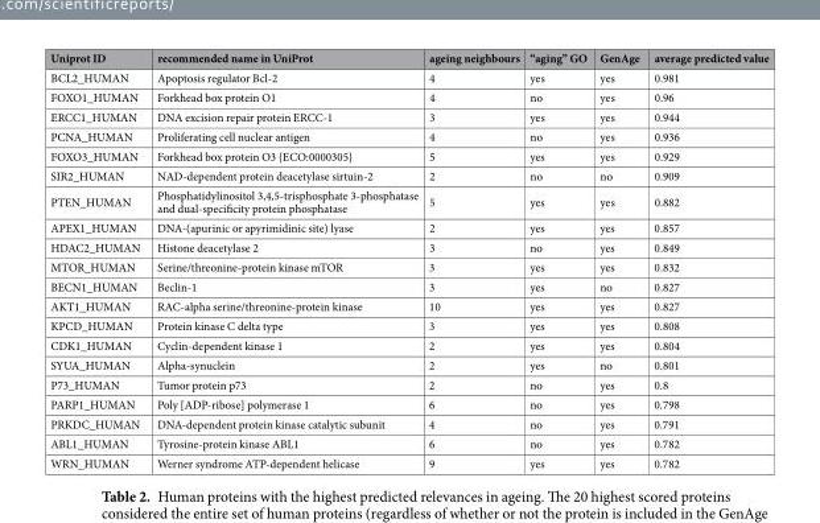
<table><thead><tr><td>Uniprot ID</td><td>recommended name in UniProt</td><td>ageing neighbours</td><td>“aging” GO</td><td>GenAge</td><td>average predicted value</td></tr></thead><tbody><tr><td>BCL2_HUMAN</td><td>Apoptosis regulator Bcl-2</td><td>4</td><td>yes</td><td>yes</td><td>0.981</td></tr><tr><td>FOXO1_HUMAN</td><td>Forkhead box protein O1</td><td>4</td><td>no</td><td>yes</td><td>0.96</td></tr><tr><td>ERCC1_HUMAN</td><td>DNA excision repair protein ERCC-1</td><td>3</td><td>yes</td><td>yes</td><td>0.944</td></tr><tr><td>PCNA_HUMAN</td><td>Proliferating cell nuclear antigen</td><td>4</td><td>no</td><td>yes</td><td>0.936</td></tr><tr><td>FOXO3_HUMAN</td><td>Forkhead box protein O3 {ECO:0000305}</td><td>5</td><td>yes</td><td>yes</td><td>0.929</td></tr><tr><td>SIR2_HUMAN</td><td>NAD-dependent protein deacetylase sirtuin-2</td><td>2</td><td>no</td><td>no</td><td>0.909</td></tr><tr><td>PTEN_HUMAN</td><td>Phosphatidylinositol 3,4,5-trisphosphate 3-phosphatase and dual-specificity protein phosphatase</td><td>5</td><td>yes</td><td>yes</td><td>0.882</td></tr><tr><td>APEX1_HUMAN</td><td>DNA-(apurinic or apyrimidinic site) lyase</td><td>2</td><td>yes</td><td>yes</td><td>0.857</td></tr><tr><td>HDAC2_HUMAN</td><td>Histone deacetylase 2</td><td>3</td><td>no</td><td>yes</td><td>0.849</td></tr><tr><td>MTOR_HUMAN</td><td>Serine/threonine-protein kinase mTOR</td><td>3</td><td>yes</td><td>yes</td><td>0.832</td></tr><tr><td>BECN1_HUMAN</td><td>Beclin-1</td><td>3</td><td>yes</td><td>no</td><td>0.827</td></tr><tr><td>AKT1_HUMAN</td><td>RAC-alpha serine/threonine-protein kinase</td><td>10</td><td>yes</td><td>yes</td><td>0.827</td></tr><tr><td>KPCD_HUMAN</td><td>Protein kinase C delta type</td><td>3</td><td>yes</td><td>yes</td><td>0.808</td></tr><tr><td>CDK1_HUMAN</td><td>Cyclin-dependent kinase 1</td><td>2</td><td>yes</td><td>yes</td><td>0.804</td></tr><tr><td>SYUA_HUMAN</td><td>Alpha-synuclein</td><td>2</td><td>yes</td><td>no</td><td>0.801</td></tr><tr><td>P73_HUMAN</td><td>Tumor protein p73</td><td>2</td><td>no</td><td>yes</td><td>0.8</td></tr><tr><td>PARP1_HUMAN</td><td>Poly [ADP-ribose] polymerase 1</td><td>6</td><td>no</td><td>yes</td><td>0.798</td></tr><tr><td>PRKDC_HUMAN</td><td>DNA-dependent protein kinase catalytic subunit</td><td>4</td><td>no</td><td>yes</td><td>0.791</td></tr><tr><td>ABL1_HUMAN</td><td>Tyrosine-protein kinase ABL1</td><td>6</td><td>no</td><td>yes</td><td>0.782</td></tr><tr><td>WRN_HUMAN</td><td>Werner syndrome ATP-dependent helicase</td><td>9</td><td>yes</td><td>yes</td><td>0.782</td></tr></tbody></table>